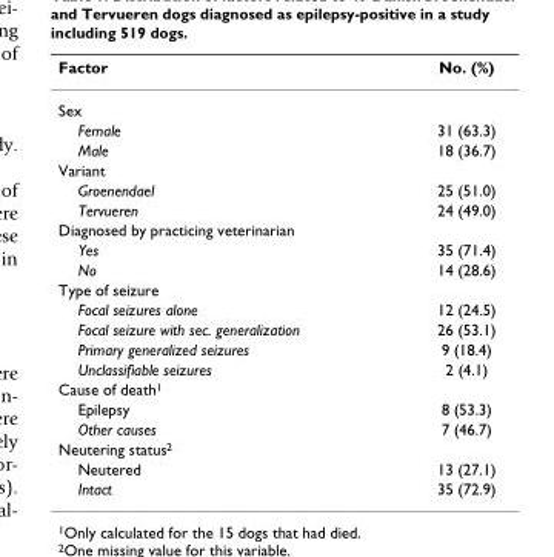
<table><thead><tr><td>Factor</td><td>No. (%)</td></tr></thead><tbody><tr><td colspan="2">Sex</td></tr><tr><td>Female</td><td>31 (63.3)</td></tr><tr><td>Male</td><td>18 (36.7)</td></tr><tr><td colspan="2">Variant</td></tr><tr><td>Groenendael</td><td>25 (51.0)</td></tr><tr><td>Tervueren</td><td>24 (49.0)</td></tr><tr><td colspan="2">Diagnosed by practicing veterinarian</td></tr><tr><td>Yes</td><td>35 (71.4)</td></tr><tr><td>No</td><td>14 (28.6)</td></tr><tr><td colspan="2">Type of seizure</td></tr><tr><td>Focal seizures alone</td><td>12 (24.5)</td></tr><tr><td>Focal seizure with sec. generalization</td><td>26 (53.1)</td></tr><tr><td>Primary generalized seizures</td><td>9 (18.4)</td></tr><tr><td>Unclassifiable seizures</td><td>2 (4.1)</td></tr><tr><td colspan="2">Cause of death<sup>1</sup></td></tr><tr><td>Epilepsy</td><td>8 (53.3)</td></tr><tr><td>Other causes</td><td>7 (46.7)</td></tr><tr><td colspan="2">Neutering status<sup>2</sup></td></tr><tr><td>Neutered</td><td>13 (27.1)</td></tr><tr><td>Intact</td><td>35 (72.9)</td></tr></tbody></table>